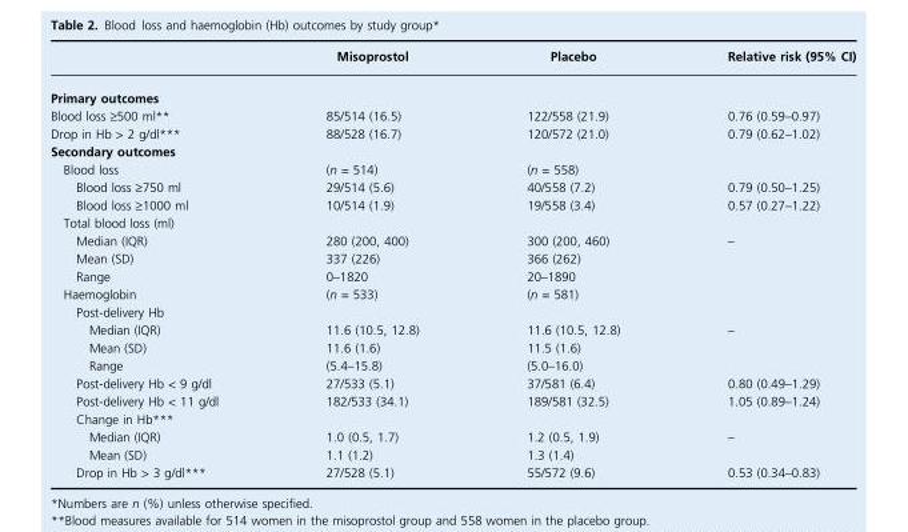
<table><thead><tr><td></td><td>Misoprostol</td><td>Placebo</td><td>Relative risk (95% CI)</td></tr></thead><tbody><tr><td colspan="4">Primary outcomes</td></tr><tr><td>Blood loss ‡500 ml**</td><td>85/514 (16.5)</td><td>122/558 (21.9)</td><td>0.76 (0.59–0.97)</td></tr><tr><td>Drop in Hb &gt; 2 g/dl***</td><td>88/528 (16.7)</td><td>120/572 (21.0)</td><td>0.79 (0.62–1.02)</td></tr><tr><td colspan="4">Secondary outcomes</td></tr><tr><td>Blood loss</td><td>(n = 514)</td><td>(n = 558)</td><td></td></tr><tr><td>Blood loss ‡750 ml</td><td>29/514 (5.6)</td><td>40/558 (7.2)</td><td>0.79 (0.50–1.25)</td></tr><tr><td>Blood loss ‡1000 ml</td><td>10/514 (1.9)</td><td>19/558 (3.4)</td><td>0.57 (0.27–1.22)</td></tr><tr><td colspan="4">Total blood loss (ml)</td></tr><tr><td>Median (IQR)</td><td>280 (200, 400)</td><td>300 (200, 460)</td><td>–</td></tr><tr><td>Mean (SD)</td><td>337 (226)</td><td>366 (262)</td><td></td></tr><tr><td>Range</td><td>0–1820</td><td>20–1890</td><td></td></tr><tr><td>Haemoglobin</td><td>(n = 533)</td><td>(n = 581)</td><td></td></tr><tr><td colspan="4">Post-delivery Hb</td></tr><tr><td>Median (IQR)</td><td>11.6 (10.5, 12.8)</td><td>11.6 (10.5, 12.8)</td><td>–</td></tr><tr><td>Mean (SD)</td><td>11.6 (1.6)</td><td>11.5 (1.6)</td><td></td></tr><tr><td>Range</td><td>(5.4–15.8)</td><td>(5.0–16.0)</td><td></td></tr><tr><td>Post-delivery Hb &lt; 9 g/dl</td><td>27/533 (5.1)</td><td>37/581 (6.4)</td><td>0.80 (0.49–1.29)</td></tr><tr><td>Post-delivery Hb &lt; 11 g/dl</td><td>182/533 (34.1)</td><td>189/581 (32.5)</td><td>1.05 (0.89–1.24)</td></tr><tr><td colspan="4">Change in Hb***</td></tr><tr><td>Median (IQR)</td><td>1.0 (0.5, 1.7)</td><td>1.2 (0.5, 1.9)</td><td>–</td></tr><tr><td>Mean (SD)</td><td>1.1 (1.2)</td><td>1.3 (1.4)</td><td></td></tr><tr><td>Drop in Hb &gt; 3 g/dl***</td><td>27/528 (5.1)</td><td>55/572 (9.6)</td><td>0.53 (0.34–0.83)</td></tr></tbody></table>